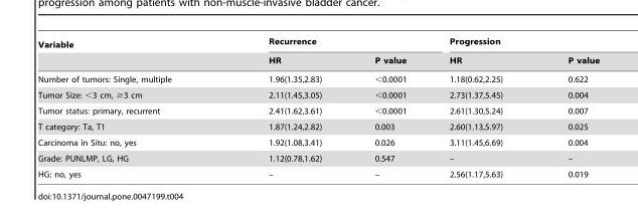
<table><thead><tr><td rowspan="2">Variable</td><td colspan="2">Recurrence</td><td colspan="2">Progression</td></tr><tr><td>HR</td><td>P value</td><td>HR</td><td>P value</td></tr></thead><tbody><tr><td>Number of tumors: Single, multiple</td><td>1.96(1.35,2.83)</td><td>&lt;0.0001</td><td>1.18(0.62,2.25)</td><td>0.622</td></tr><tr><td>Tumor Size: &lt;3 cm, ≥3 cm</td><td>2.11(1.45,3.05)</td><td>&lt;0.0001</td><td>2.73(1.37,5.45)</td><td>0.004</td></tr><tr><td>Tumor status: primary, recurrent</td><td>2.41(1.62,3.61)</td><td>&lt;0.0001</td><td>2.61(1.30,5.24)</td><td>0.007</td></tr><tr><td>T category: Ta, T1</td><td>1.87(1.24,2.82)</td><td>0.003</td><td>2.60(1.13,5.97)</td><td>0.025</td></tr><tr><td>Carcinoma in Situ: no, yes</td><td>1.92(1.08,3.41)</td><td>0.026</td><td>3.11(1.45,6.69)</td><td>0.004</td></tr><tr><td>Grade: PUNLMP, LG, HG</td><td>1.12(0.78,1.62)</td><td>0.547</td><td>–</td><td>–</td></tr><tr><td>HG: no, yes</td><td>–</td><td>–</td><td>2.56(1.17,5.63)</td><td>0.019</td></tr></tbody></table>